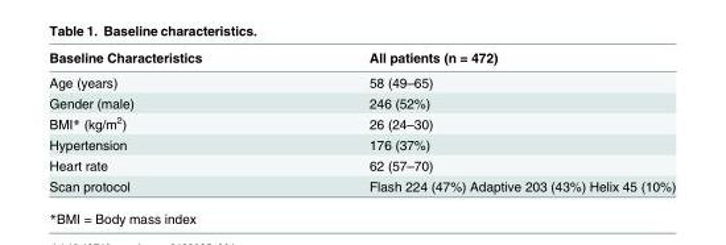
<table><thead><tr><td>Baseline Characteristics</td><td>All patients (n = 472)</td></tr></thead><tbody><tr><td>Age (years)</td><td>58 (49–65)</td></tr><tr><td>Gender (male)</td><td>246 (52%)</td></tr><tr><td>BMI* (kg/m<sup>2</sup>)</td><td>26 (24–30)</td></tr><tr><td>Hypertension</td><td>176 (37%)</td></tr><tr><td>Heart rate</td><td>62 (57–70)</td></tr><tr><td>Scan protocol</td><td>Flash 224 (47%) Adaptive 203 (43%) Helix 45 (10%)</td></tr></tbody></table>